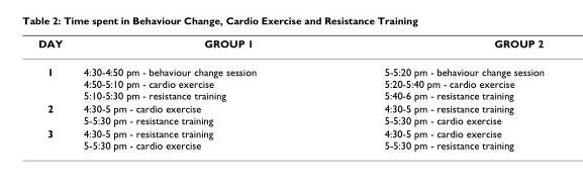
<table><thead><tr><td>DAY</td><td>GROUP 1</td><td>GROUP 2</td></tr></thead><tbody><tr><td>1</td><td>4:30-4:50 pm - behaviour change session 4:50-5:10 pm - cardio exercise 5:10-5:30 pm - resistance training</td><td>5-5:20 pm - behaviour change session 5:20-5:40 pm - cardio exercise 5:40-6 pm - resistance training</td></tr><tr><td>2</td><td>4:30-5 pm - cardio exercise 5-5:30 pm - resistance training</td><td>4:30-5 pm - resistance training 5-5:30 pm - cardio exercise</td></tr><tr><td>3</td><td>4:30-5 pm - resistance training 5-5:30 pm - cardio exercise</td><td>4:30-5 pm - cardio exercise 5-5:30 pm - resistance training</td></tr></tbody></table>